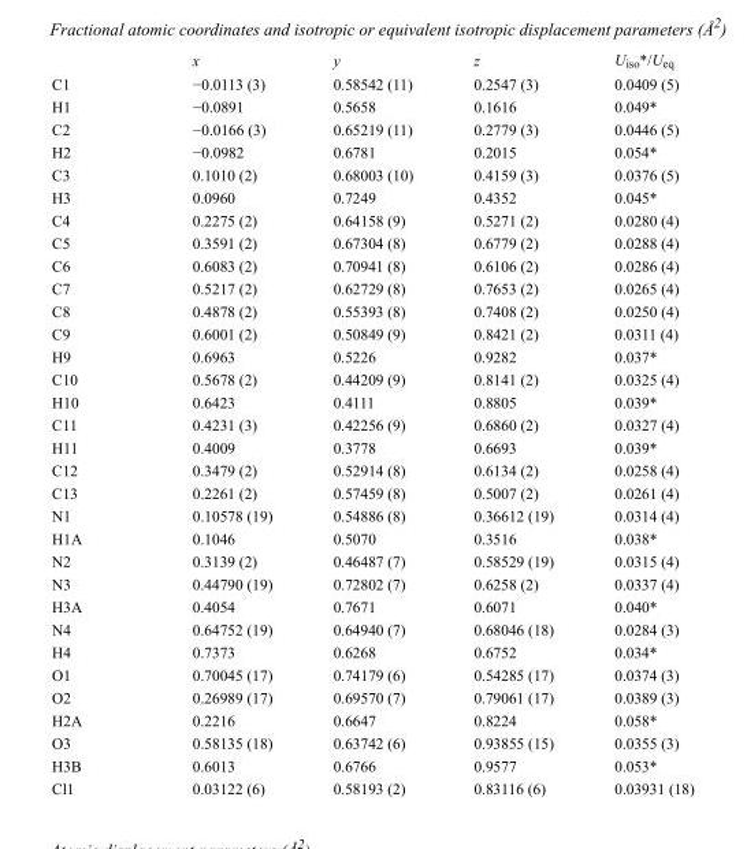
<table><thead><tr><td></td><td>x</td><td>y</td><td>z</td><td>U<sub>iso</sub>*/U<sub>eq</sub></td></tr></thead><tbody><tr><td>C1</td><td>−0.0113 (3)</td><td>0.58542 (11)</td><td>0.2547 (3)</td><td>0.0409 (5)</td></tr><tr><td>H1</td><td>−0.0891</td><td>0.5658</td><td>0.1616</td><td>0.049*</td></tr><tr><td>C2</td><td>−0.0166 (3)</td><td>0.65219 (11)</td><td>0.2779 (3)</td><td>0.0446 (5)</td></tr><tr><td>H2</td><td>−0.0982</td><td>0.6781</td><td>0.2015</td><td>0.054*</td></tr><tr><td>C3</td><td>0.1010 (2)</td><td>0.68003 (10)</td><td>0.4159 (3)</td><td>0.0376 (5)</td></tr><tr><td>H3</td><td>0.0960</td><td>0.7249</td><td>0.4352</td><td>0.045*</td></tr><tr><td>C4</td><td>0.2275 (2)</td><td>0.64158 (9)</td><td>0.5271 (2)</td><td>0.0280 (4)</td></tr><tr><td>C5</td><td>0.3591 (2)</td><td>0.67304 (8)</td><td>0.6779 (2)</td><td>0.0288 (4)</td></tr><tr><td>C6</td><td>0.6083 (2)</td><td>0.70941 (8)</td><td>0.6106 (2)</td><td>0.0286 (4)</td></tr><tr><td>C7</td><td>0.5217 (2)</td><td>0.62729 (8)</td><td>0.7653 (2)</td><td>0.0265 (4)</td></tr><tr><td>C8</td><td>0.4878 (2)</td><td>0.55393 (8)</td><td>0.7408 (2)</td><td>0.0250 (4)</td></tr><tr><td>C9</td><td>0.6001 (2)</td><td>0.50849 (9)</td><td>0.8421 (2)</td><td>0.0311 (4)</td></tr><tr><td>H9</td><td>0.6963</td><td>0.5226</td><td>0.9282</td><td>0.037*</td></tr><tr><td>C10</td><td>0.5678 (2)</td><td>0.44209 (9)</td><td>0.8141 (2)</td><td>0.0325 (4)</td></tr><tr><td>H10</td><td>0.6423</td><td>0.4111</td><td>0.8805</td><td>0.039*</td></tr><tr><td>C11</td><td>0.4231 (3)</td><td>0.42256 (9)</td><td>0.6860 (2)</td><td>0.0327 (4)</td></tr><tr><td>H11</td><td>0.4009</td><td>0.3778</td><td>0.6693</td><td>0.039*</td></tr><tr><td>C12</td><td>0.3479 (2)</td><td>0.52914 (8)</td><td>0.6134 (2)</td><td>0.0258 (4)</td></tr><tr><td>C13</td><td>0.2261 (2)</td><td>0.57459 (8)</td><td>0.5007 (2)</td><td>0.0261 (4)</td></tr><tr><td>N1</td><td>0.10578 (19)</td><td>0.54886 (8)</td><td>0.36612 (19)</td><td>0.0314 (4)</td></tr><tr><td>H1A</td><td>0.1046</td><td>0.5070</td><td>0.3516</td><td>0.038*</td></tr><tr><td>N2</td><td>0.3139 (2)</td><td>0.46487 (7)</td><td>0.58529 (19)</td><td>0.0315 (4)</td></tr><tr><td>N3</td><td>0.44790 (19)</td><td>0.72802 (7)</td><td>0.6258 (2)</td><td>0.0337 (4)</td></tr><tr><td>H3A</td><td>0.4054</td><td>0.7671</td><td>0.6071</td><td>0.040*</td></tr><tr><td>N4</td><td>0.64752 (19)</td><td>0.64940 (7)</td><td>0.68046 (18)</td><td>0.0284 (3)</td></tr><tr><td>H4</td><td>0.7373</td><td>0.6268</td><td>0.6752</td><td>0.034*</td></tr><tr><td>O1</td><td>0.70045 (17)</td><td>0.74179 (6)</td><td>0.54285 (17)</td><td>0.0374 (3)</td></tr><tr><td>O2</td><td>0.26989 (17)</td><td>0.69570 (7)</td><td>0.79061 (17)</td><td>0.0389 (3)</td></tr><tr><td>H2A</td><td>0.2216</td><td>0.6647</td><td>0.8224</td><td>0.058*</td></tr><tr><td>O3</td><td>0.58135 (18)</td><td>0.63742 (6)</td><td>0.93855 (15)</td><td>0.0355 (3)</td></tr><tr><td>H3B</td><td>0.6013</td><td>0.6766</td><td>0.9577</td><td>0.053*</td></tr><tr><td>Cl1</td><td>0.03122 (6)</td><td>0.58193 (2)</td><td>0.83116 (6)</td><td>0.03931 (18)</td></tr></tbody></table>